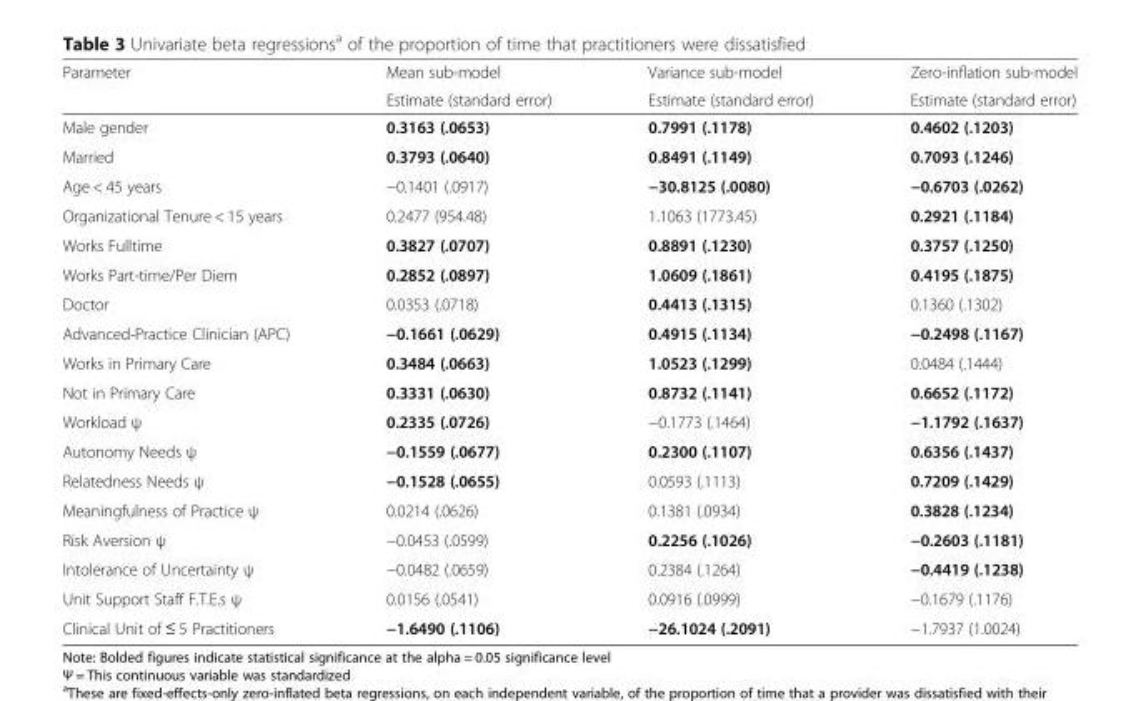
<table><thead><tr><td rowspan="2">Parameter</td><td rowspan="2">Mean sub-model Estimate (standard error)</td><td rowspan="2">Variance sub-model Estimate (standard error)</td><td rowspan="2">Zero-inflation sub-model Estimate (standard error)</td></tr><tr></tr></thead><tbody><tr><td>Male gender</td><td>0.3163 (.0653)</td><td>0.7991 (.1178)</td><td>0.4602 (.1203)</td></tr><tr><td>Married</td><td>0.3793 (.0640)</td><td>0.8491 (.1149)</td><td>0.7093 (.1246)</td></tr><tr><td>Age &lt; 45 years</td><td>−0.1401 (.0917)</td><td>−30.8125 (.0080)</td><td>−0.6703 (.0262)</td></tr><tr><td>Organizational Tenure &lt; 15 years</td><td>0.2477 (954.48)</td><td>1.1063 (1773.45)</td><td>0.2921 (.1184)</td></tr><tr><td>Works Fulltime</td><td>0.3827 (.0707)</td><td>0.8891 (.1230)</td><td>0.3757 (.1250)</td></tr><tr><td>Works Part-time/Per Diem</td><td>0.2852 (.0897)</td><td>1.0609 (.1861)</td><td>0.4195 (.1875)</td></tr><tr><td>Doctor</td><td>0.0353 (.0718)</td><td>0.4413 (.1315)</td><td>0.1360 (.1302)</td></tr><tr><td>Advanced-Practice Clinician (APC)</td><td>−0.1661 (.0629)</td><td>0.4915 (.1134)</td><td>−0.2498 (.1167)</td></tr><tr><td>Works in Primary Care</td><td>0.3484 (.0663)</td><td>1.0523 (.1299)</td><td>0.0484 (.1444)</td></tr><tr><td>Not in Primary Care</td><td>0.3331 (.0630)</td><td>0.8732 (.1141)</td><td>0.6652 (.1172)</td></tr><tr><td>Workload ψ</td><td>0.2335 (.0726)</td><td>−0.1773 (.1464)</td><td>−1.1792 (.1637)</td></tr><tr><td>Autonomy Needs ψ</td><td>−0.1559 (.0677)</td><td>0.2300 (.1107)</td><td>0.6356 (.1437)</td></tr><tr><td>Relatedness Needs ψ</td><td>−0.1528 (.0655)</td><td>0.0593 (.1113)</td><td>0.7209 (.1429)</td></tr><tr><td>Meaningfulness of Practice ψ</td><td>0.0214 (.0626)</td><td>0.1381 (.0934)</td><td>0.3828 (.1234)</td></tr><tr><td>Risk Aversion ψ</td><td>−0.0453 (.0599)</td><td>0.2256 (.1026)</td><td>−0.2603 (.1181)</td></tr><tr><td>Intolerance of Uncertainty ψ</td><td>−0.0482 (.0659)</td><td>0.2384 (.1264)</td><td>−0.4419 (.1238)</td></tr><tr><td>Unit Support Staff F.T.E.s ψ</td><td>0.0156 (.0541)</td><td>0.0916 (.0999)</td><td>−0.1679 (.1176)</td></tr><tr><td>Clinical Unit of ≤ 5 Practitioners</td><td>−1.6490 (.1106)</td><td>−26.1024 (.2091)</td><td>−1.7937 (1.0024)</td></tr></tbody></table>